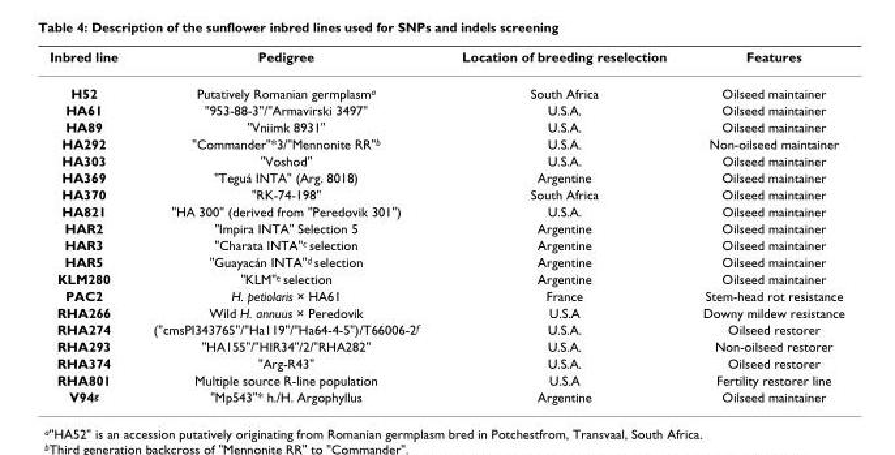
<table><thead><tr><td>Inbred line</td><td>Pedigree</td><td>Location of breeding reselection</td><td>Features</td></tr></thead><tbody><tr><td>H52</td><td>Putatively Romanian germplasm<sup>a</sup></td><td>South Africa</td><td>Oilseed maintainer</td></tr><tr><td>HA61</td><td>&quot;953-88-3&quot;/&quot;Armavirski 3497&quot;</td><td>U.S.A.</td><td>Oilseed maintainer</td></tr><tr><td>HA89</td><td>&quot;Vniimk 8931&quot;</td><td>U.S.A.</td><td>Oilseed maintainer</td></tr><tr><td>HA292</td><td>&quot;Commander&quot;*3/&quot;Mennonite RR&quot;<sup>b</sup></td><td>U.S.A.</td><td>Non-oilseed maintainer</td></tr><tr><td>HA303</td><td>&quot;Voshod&quot;</td><td>U.S.A.</td><td>Oilseed maintainer</td></tr><tr><td>HA369</td><td>&quot;Teguá INTA&quot; (Arg. 8018)</td><td>Argentine</td><td>Oilseed maintainer</td></tr><tr><td>HA370</td><td>&quot;RK-74-198&quot;</td><td>South Africa</td><td>Oilseed maintainer</td></tr><tr><td>HA821</td><td>&quot;HA 300&quot; (derived from &quot;Peredovik 301&quot;)</td><td>U.S.A.</td><td>Oilseed maintainer</td></tr><tr><td>HAR2</td><td>&quot;Impira INTA&quot; Selection 5</td><td>Argentine</td><td>Oilseed maintainer</td></tr><tr><td>HAR3</td><td>&quot;Charata INTA&quot;<sup>c</sup> selection</td><td>Argentine</td><td>Oilseed maintainer</td></tr><tr><td>HAR5</td><td>&quot;Guayacán INTA&quot;<sup>d</sup> selection</td><td>Argentine</td><td>Oilseed maintainer</td></tr><tr><td>KLM280</td><td>&quot;KLM&quot;<sup>e</sup> selection</td><td>Argentine</td><td>Oilseed maintainer</td></tr><tr><td>PAC2</td><td>H. petiolaris × HA61</td><td>France</td><td>Stem-head rot resistance</td></tr><tr><td>RHA266</td><td>Wild H. annuus × Peredovik</td><td>U.S.A</td><td>Downy mildew resistance</td></tr><tr><td>RHA274</td><td>(&quot;cmsPI343765&quot;/&quot;Ha119&quot;/&quot;Ha64-4-5&quot;)/T66006-2<sup>f</sup></td><td>U.S.A.</td><td>Oilseed restorer</td></tr><tr><td>RHA293</td><td>&quot;HA155&quot;/&quot;HIR34&quot;/2/&quot;RHA282&quot;</td><td>U.S.A.</td><td>Non-oilseed restorer</td></tr><tr><td>RHA374</td><td>&quot;Arg-R43&quot;</td><td>U.S.A.</td><td>Oilseed restorer</td></tr><tr><td>RHA801</td><td>Multiple source R-line population</td><td>U.S.A</td><td>Fertility restorer line</td></tr><tr><td>V94<sup>g</sup></td><td>&quot;Mp543&quot;* h./H. Argophyllus</td><td>Argentine</td><td>Oilseed maintainer</td></tr></tbody></table>